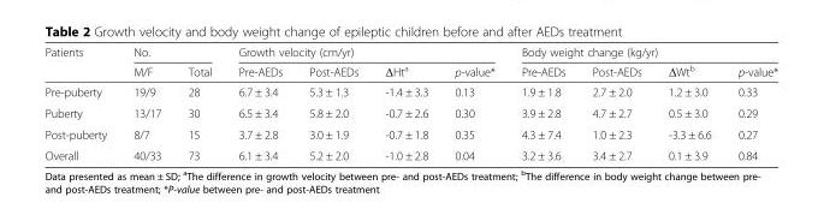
<table><thead><tr><td rowspan="2">Patients</td><td colspan="2">No.</td><td colspan="4">Growth velocity (cm/yr)</td><td colspan="4">Body weight change (kg/yr)</td></tr><tr><td>M/F</td><td>Total</td><td>Pre-AEDs</td><td>Post-AEDs</td><td>ΔHt<sup>a</sup></td><td>p-value*</td><td>Pre-AEDs</td><td>Post-AEDs</td><td>ΔWt<sup>b</sup></td><td>p-value*</td></tr></thead><tbody><tr><td>Pre-puberty</td><td>19/9</td><td>28</td><td>6.7 ± 3.4</td><td>5.3 ± 1.3</td><td>-1.4 ± 3.3</td><td>0.13</td><td>1.9 ± 1.8</td><td>2.7 ± 2.0</td><td>1.2 ± 3.0</td><td>0.33</td></tr><tr><td>Puberty</td><td>13/17</td><td>30</td><td>6.5 ± 3.4</td><td>5.8 ± 2.0</td><td>-0.7 ± 2.6</td><td>0.30</td><td>3.9 ± 2.8</td><td>4.7 ± 2.7</td><td>0.5 ± 3.0</td><td>0.29</td></tr><tr><td>Post-puberty</td><td>8/7</td><td>15</td><td>3.7 ± 2.8</td><td>3.0 ± 1.9</td><td>-0.7 ± 1.8</td><td>0.35</td><td>4.3 ± 7.4</td><td>1.0 ± 2.3</td><td>-3.3 ± 6.6</td><td>0.27</td></tr><tr><td>Overall</td><td>40/33</td><td>73</td><td>6.1 ± 3.4</td><td>5.2 ± 2.0</td><td>-1.0 ± 2.8</td><td>0.04</td><td>3.2 ± 3.6</td><td>3.4 ± 2.7</td><td>0.1 ± 3.9</td><td>0.84</td></tr></tbody></table>